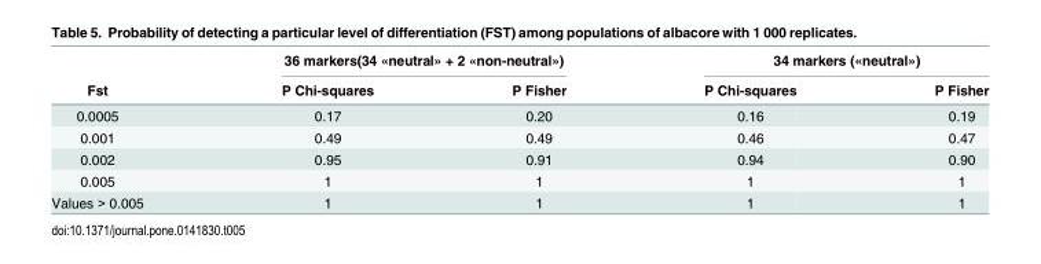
<table><thead><tr><td rowspan="2">Fst</td><td colspan="2">36 markers(34 «neutral» + 2 «non-neutral»)</td><td colspan="2">34 markers («neutral»)</td></tr><tr><td>P Chi-squares</td><td>P Fisher</td><td>P Chi-squares</td><td>P Fisher</td></tr></thead><tbody><tr><td>0.0005</td><td>0.17</td><td>0.20</td><td>0.16</td><td>0.19</td></tr><tr><td>0.001</td><td>0.49</td><td>0.49</td><td>0.46</td><td>0.47</td></tr><tr><td>0.002</td><td>0.95</td><td>0.91</td><td>0.94</td><td>0.90</td></tr><tr><td>0.005</td><td>1</td><td>1</td><td>1</td><td>1</td></tr><tr><td>Values &gt; 0.005</td><td>1</td><td>1</td><td>1</td><td>1</td></tr></tbody></table>